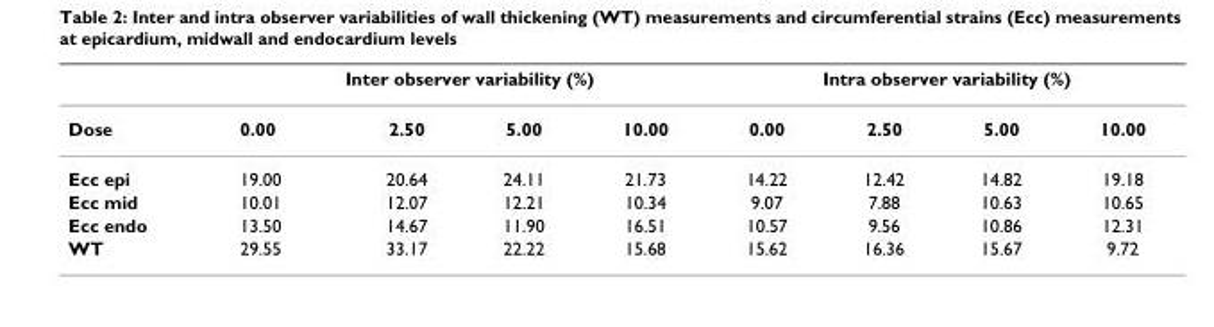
<table><thead><tr><td rowspan="2">Dose</td><td colspan="4">Inter observer variability (%)</td><td colspan="4">Intra observer variability (%)</td></tr><tr><td>0.00</td><td>2.50</td><td>5.00</td><td>10.00</td><td>0.00</td><td>2.50</td><td>5.00</td><td>10.00</td></tr></thead><tbody><tr><td>Ecc epi</td><td>19.00</td><td>20.64</td><td>24.11</td><td>21.73</td><td>14.22</td><td>12.42</td><td>14.82</td><td>19.18</td></tr><tr><td>Ecc mid</td><td>10.01</td><td>12.07</td><td>12.21</td><td>10.34</td><td>9.07</td><td>7.88</td><td>10.63</td><td>10.65</td></tr><tr><td>Ecc endo</td><td>13.50</td><td>14.67</td><td>11.90</td><td>16.51</td><td>10.57</td><td>9.56</td><td>10.86</td><td>12.31</td></tr><tr><td>WT</td><td>29.55</td><td>33.17</td><td>22.22</td><td>15.68</td><td>15.62</td><td>16.36</td><td>15.67</td><td>9.72</td></tr></tbody></table>